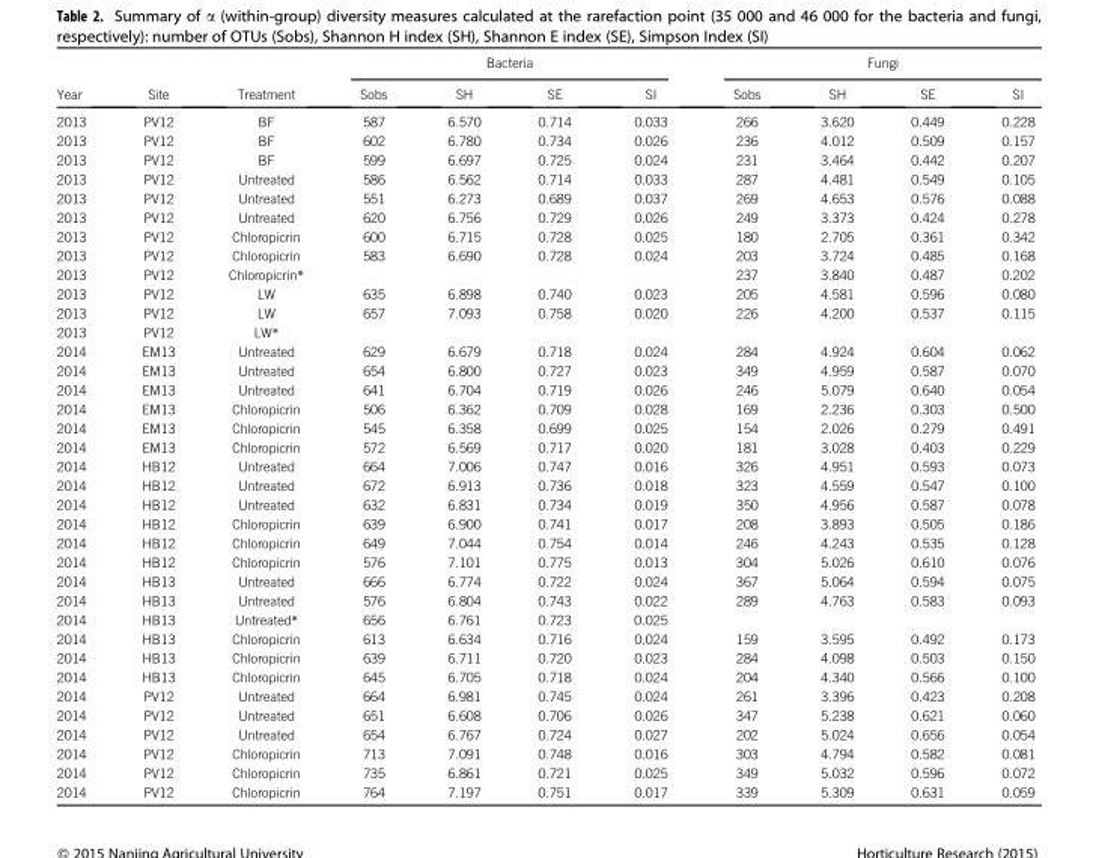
<table><thead><tr><td rowspan="2">Year</td><td rowspan="2">Site</td><td rowspan="2">Treatment</td><td colspan="4">Bacteria</td><td colspan="4">Fungi</td></tr><tr><td>Sobs</td><td>SH</td><td>SE</td><td>SI</td><td>Sobs</td><td>SH</td><td>SE</td><td>SI</td></tr></thead><tbody><tr><td>2013</td><td>PV12</td><td>BF</td><td>587</td><td>6.570</td><td>0.714</td><td>0.033</td><td>266</td><td>3.620</td><td>0.449</td><td>0.228</td></tr><tr><td>2013</td><td>PV12</td><td>BF</td><td>602</td><td>6.780</td><td>0.734</td><td>0.026</td><td>236</td><td>4.012</td><td>0.509</td><td>0.157</td></tr><tr><td>2013</td><td>PV12</td><td>BF</td><td>599</td><td>6.697</td><td>0.725</td><td>0.024</td><td>231</td><td>3.464</td><td>0.442</td><td>0.207</td></tr><tr><td>2013</td><td>PV12</td><td>Untreated</td><td>586</td><td>6.562</td><td>0.714</td><td>0.033</td><td>287</td><td>4.481</td><td>0.549</td><td>0.105</td></tr><tr><td>2013</td><td>PV12</td><td>Untreated</td><td>551</td><td>6.273</td><td>0.689</td><td>0.037</td><td>269</td><td>4.653</td><td>0.576</td><td>0.088</td></tr><tr><td>2013</td><td>PV12</td><td>Untreated</td><td>620</td><td>6.756</td><td>0.729</td><td>0.026</td><td>249</td><td>3.373</td><td>0.424</td><td>0.278</td></tr><tr><td>2013</td><td>PV12</td><td>Chloropicrin</td><td>600</td><td>6.715</td><td>0.728</td><td>0.025</td><td>180</td><td>2.705</td><td>0.361</td><td>0.342</td></tr><tr><td>2013</td><td>PV12</td><td>Chloropicrin</td><td>583</td><td>6.690</td><td>0.728</td><td>0.024</td><td>203</td><td>3.724</td><td>0.485</td><td>0.168</td></tr><tr><td>2013</td><td>PV12</td><td>Chloropicrin*</td><td></td><td></td><td></td><td></td><td>237</td><td>3.840</td><td>0.487</td><td>0.202</td></tr><tr><td>2013</td><td>PV12</td><td>LW</td><td>635</td><td>6.898</td><td>0.740</td><td>0.023</td><td>205</td><td>4.581</td><td>0.596</td><td>0.080</td></tr><tr><td>2013</td><td>PV12</td><td>LW</td><td>657</td><td>7.093</td><td>0.758</td><td>0.020</td><td>226</td><td>4.200</td><td>0.537</td><td>0.115</td></tr><tr><td>2013</td><td>PV12</td><td>LW*</td><td></td><td></td><td></td><td></td><td></td><td></td><td></td><td></td></tr><tr><td>2014</td><td>EM13</td><td>Untreated</td><td>629</td><td>6.679</td><td>0.718</td><td>0.024</td><td>284</td><td>4.924</td><td>0.604</td><td>0.062</td></tr><tr><td>2014</td><td>EM13</td><td>Untreated</td><td>654</td><td>6.800</td><td>0.727</td><td>0.023</td><td>349</td><td>4.959</td><td>0.587</td><td>0.070</td></tr><tr><td>2014</td><td>EM13</td><td>Untreated</td><td>641</td><td>6.704</td><td>0.719</td><td>0.026</td><td>246</td><td>5.079</td><td>0.640</td><td>0.054</td></tr><tr><td>2014</td><td>EM13</td><td>Chloropicrin</td><td>506</td><td>6.362</td><td>0.709</td><td>0.028</td><td>169</td><td>2.236</td><td>0.303</td><td>0.500</td></tr><tr><td>2014</td><td>EM13</td><td>Chloropicrin</td><td>545</td><td>6.358</td><td>0.699</td><td>0.025</td><td>154</td><td>2.026</td><td>0.279</td><td>0.491</td></tr><tr><td>2014</td><td>EM13</td><td>Chloropicrin</td><td>572</td><td>6.569</td><td>0.717</td><td>0.020</td><td>181</td><td>3.028</td><td>0.403</td><td>0.229</td></tr><tr><td>2014</td><td>HB12</td><td>Untreated</td><td>664</td><td>7.006</td><td>0.747</td><td>0.016</td><td>326</td><td>4.951</td><td>0.593</td><td>0.073</td></tr><tr><td>2014</td><td>HB12</td><td>Untreated</td><td>672</td><td>6.913</td><td>0.736</td><td>0.018</td><td>323</td><td>4.559</td><td>0.547</td><td>0.100</td></tr><tr><td>2014</td><td>HB12</td><td>Untreated</td><td>632</td><td>6.831</td><td>0.734</td><td>0.019</td><td>350</td><td>4.956</td><td>0.587</td><td>0.078</td></tr><tr><td>2014</td><td>HB12</td><td>Chloropicrin</td><td>639</td><td>6.900</td><td>0.741</td><td>0.017</td><td>208</td><td>3.893</td><td>0.505</td><td>0.186</td></tr><tr><td>2014</td><td>HB12</td><td>Chloropicrin</td><td>649</td><td>7.044</td><td>0.754</td><td>0.014</td><td>246</td><td>4.243</td><td>0.535</td><td>0.128</td></tr><tr><td>2014</td><td>HB12</td><td>Chloropicrin</td><td>576</td><td>7.101</td><td>0.775</td><td>0.013</td><td>304</td><td>5.026</td><td>0.610</td><td>0.076</td></tr><tr><td>2014</td><td>HB13</td><td>Untreated</td><td>666</td><td>6.774</td><td>0.722</td><td>0.024</td><td>367</td><td>5.064</td><td>0.594</td><td>0.075</td></tr><tr><td>2014</td><td>HB13</td><td>Untreated</td><td>576</td><td>6.804</td><td>0.743</td><td>0.022</td><td>289</td><td>4.763</td><td>0.583</td><td>0.093</td></tr><tr><td>2014</td><td>HB13</td><td>Untreated*</td><td>656</td><td>6.761</td><td>0.723</td><td>0.025</td><td></td><td></td><td></td><td></td></tr><tr><td>2014</td><td>HB13</td><td>Chloropicrin</td><td>613</td><td>6.634</td><td>0.716</td><td>0.024</td><td>159</td><td>3.595</td><td>0.492</td><td>0.173</td></tr><tr><td>2014</td><td>HB13</td><td>Chloropicrin</td><td>639</td><td>6.711</td><td>0.720</td><td>0.023</td><td>284</td><td>4.098</td><td>0.503</td><td>0.150</td></tr><tr><td>2014</td><td>HB13</td><td>Chloropicrin</td><td>645</td><td>6.705</td><td>0.718</td><td>0.024</td><td>204</td><td>4.340</td><td>0.566</td><td>0.100</td></tr><tr><td>2014</td><td>PV12</td><td>Untreated</td><td>664</td><td>6.981</td><td>0.745</td><td>0.024</td><td>261</td><td>3.396</td><td>0.423</td><td>0.208</td></tr><tr><td>2014</td><td>PV12</td><td>Untreated</td><td>651</td><td>6.608</td><td>0.706</td><td>0.026</td><td>347</td><td>5.238</td><td>0.621</td><td>0.060</td></tr><tr><td>2014</td><td>PV12</td><td>Untreated</td><td>654</td><td>6.767</td><td>0.724</td><td>0.027</td><td>202</td><td>5.024</td><td>0.656</td><td>0.054</td></tr><tr><td>2014</td><td>PV12</td><td>Chloropicrin</td><td>713</td><td>7.091</td><td>0.748</td><td>0.016</td><td>303</td><td>4.794</td><td>0.582</td><td>0.081</td></tr><tr><td>2014</td><td>PV12</td><td>Chloropicrin</td><td>735</td><td>6.861</td><td>0.721</td><td>0.025</td><td>349</td><td>5.032</td><td>0.596</td><td>0.072</td></tr><tr><td>2014</td><td>PV12</td><td>Chloropicrin</td><td>764</td><td>7.197</td><td>0.751</td><td>0.017</td><td>339</td><td>5.309</td><td>0.631</td><td>0.059</td></tr></tbody></table>